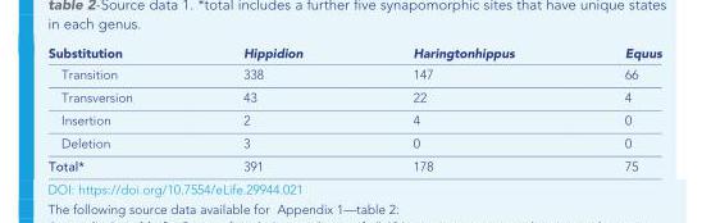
<table><thead><tr><td>Substitution</td><td>Hippidion</td><td>Haringtonhippus</td><td>Equus</td></tr></thead><tbody><tr><td>Transition</td><td>338</td><td>147</td><td>66</td></tr><tr><td>Transversion</td><td>43</td><td>22</td><td>4</td></tr><tr><td>Insertion</td><td>2</td><td>4</td><td>0</td></tr><tr><td>Deletion</td><td>3</td><td>0</td><td>0</td></tr><tr><td>Total*</td><td>391</td><td>178</td><td>75</td></tr></tbody></table>